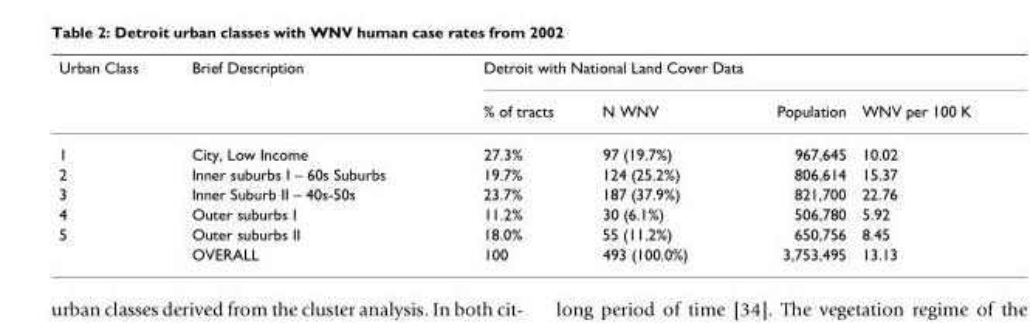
<table><thead><tr><td rowspan="2">Urban Class</td><td rowspan="2">Brief Description</td><td colspan="4">Detroit with National Land Cover Data</td></tr><tr><td>% of tracts</td><td>N WNV</td><td>Population</td><td>WNV per 100 K</td></tr></thead><tbody><tr><td>1</td><td>City, Low Income</td><td>27.3%</td><td>97 (19.7%)</td><td>967,645</td><td>10.02</td></tr><tr><td>2</td><td>Inner suburbs I – 60s Suburbs</td><td>19.7%</td><td>124 (25.2%)</td><td>806,614</td><td>15.37</td></tr><tr><td>3</td><td>Inner Suburb II – 40s-50s</td><td>23.7%</td><td>187 (37.9%)</td><td>821,700</td><td>22.76</td></tr><tr><td>4</td><td>Outer suburbs I</td><td>11.2%</td><td>30 (6.1%)</td><td>506,780</td><td>5.92</td></tr><tr><td rowspan="2">5</td><td>Outer suburbs II</td><td>18.0%</td><td>55 (11.2%)</td><td>650,756</td><td>8.45</td></tr><tr><td>OVERALL</td><td>100</td><td>493 (100.0%)</td><td>3,753,495</td><td>13.13</td></tr></tbody></table>